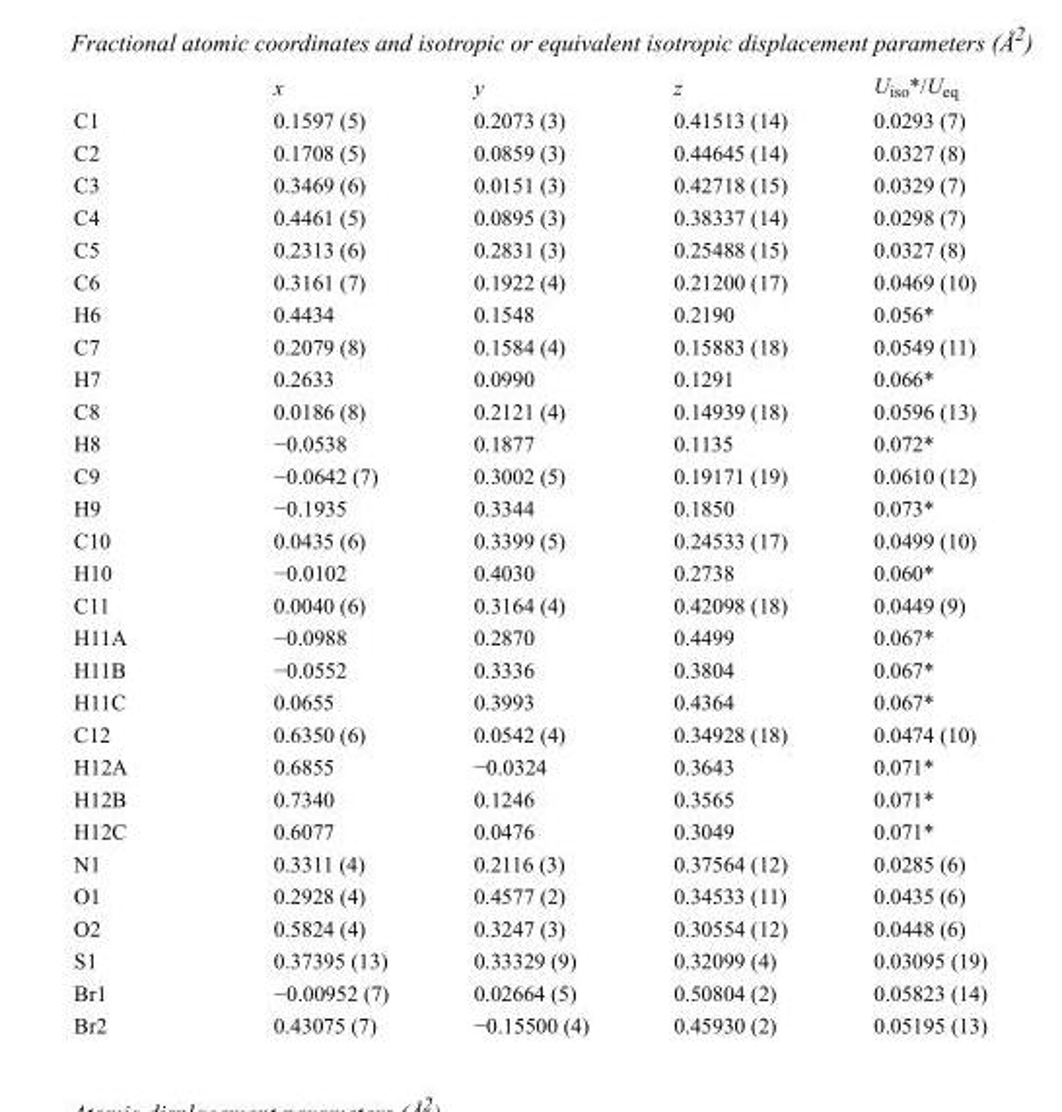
<table><thead><tr><td></td><td>x</td><td>y</td><td>z</td><td>U<sub>iso</sub>*/U<sub>eq</sub></td></tr></thead><tbody><tr><td>C1</td><td>0.1597 (5)</td><td>0.2073 (3)</td><td>0.41513 (14)</td><td>0.0293 (7)</td></tr><tr><td>C2</td><td>0.1708 (5)</td><td>0.0859 (3)</td><td>0.44645 (14)</td><td>0.0327 (8)</td></tr><tr><td>C3</td><td>0.3469 (6)</td><td>0.0151 (3)</td><td>0.42718 (15)</td><td>0.0329 (7)</td></tr><tr><td>C4</td><td>0.4461 (5)</td><td>0.0895 (3)</td><td>0.38337 (14)</td><td>0.0298 (7)</td></tr><tr><td>C5</td><td>0.2313 (6)</td><td>0.2831 (3)</td><td>0.25488 (15)</td><td>0.0327 (8)</td></tr><tr><td>C6</td><td>0.3161 (7)</td><td>0.1922 (4)</td><td>0.21200 (17)</td><td>0.0469 (10)</td></tr><tr><td>H6</td><td>0.4434</td><td>0.1548</td><td>0.2190</td><td>0.056*</td></tr><tr><td>C7</td><td>0.2079 (8)</td><td>0.1584 (4)</td><td>0.15883 (18)</td><td>0.0549 (11)</td></tr><tr><td>H7</td><td>0.2633</td><td>0.0990</td><td>0.1291</td><td>0.066*</td></tr><tr><td>C8</td><td>0.0186 (8)</td><td>0.2121 (4)</td><td>0.14939 (18)</td><td>0.0596 (13)</td></tr><tr><td>H8</td><td>−0.0538</td><td>0.1877</td><td>0.1135</td><td>0.072*</td></tr><tr><td>C9</td><td>−0.0642 (7)</td><td>0.3002 (5)</td><td>0.19171 (19)</td><td>0.0610 (12)</td></tr><tr><td>H9</td><td>−0.1935</td><td>0.3344</td><td>0.1850</td><td>0.073*</td></tr><tr><td>C10</td><td>0.0435 (6)</td><td>0.3399 (5)</td><td>0.24533 (17)</td><td>0.0499 (10)</td></tr><tr><td>H10</td><td>−0.0102</td><td>0.4030</td><td>0.2738</td><td>0.060*</td></tr><tr><td>C11</td><td>0.0040 (6)</td><td>0.3164 (4)</td><td>0.42098 (18)</td><td>0.0449 (9)</td></tr><tr><td>H11A</td><td>−0.0988</td><td>0.2870</td><td>0.4499</td><td>0.067*</td></tr><tr><td>H11B</td><td>−0.0552</td><td>0.3336</td><td>0.3804</td><td>0.067*</td></tr><tr><td>H11C</td><td>0.0655</td><td>0.3993</td><td>0.4364</td><td>0.067*</td></tr><tr><td>C12</td><td>0.6350 (6)</td><td>0.0542 (4)</td><td>0.34928 (18)</td><td>0.0474 (10)</td></tr><tr><td>H12A</td><td>0.6855</td><td>−0.0324</td><td>0.3643</td><td>0.071*</td></tr><tr><td>H12B</td><td>0.7340</td><td>0.1246</td><td>0.3565</td><td>0.071*</td></tr><tr><td>H12C</td><td>0.6077</td><td>0.0476</td><td>0.3049</td><td>0.071*</td></tr><tr><td>N1</td><td>0.3311 (4)</td><td>0.2116 (3)</td><td>0.37564 (12)</td><td>0.0285 (6)</td></tr><tr><td>O1</td><td>0.2928 (4)</td><td>0.4577 (2)</td><td>0.34533 (11)</td><td>0.0435 (6)</td></tr><tr><td>O2</td><td>0.5824 (4)</td><td>0.3247 (3)</td><td>0.30554 (12)</td><td>0.0448 (6)</td></tr><tr><td>S1</td><td>0.37395 (13)</td><td>0.33329 (9)</td><td>0.32099 (4)</td><td>0.03095 (19)</td></tr><tr><td>Br1</td><td>−0.00952 (7)</td><td>0.02664 (5)</td><td>0.50804 (2)</td><td>0.05823 (14)</td></tr><tr><td>Br2</td><td>0.43075 (7)</td><td>−0.15500 (4)</td><td>0.45930 (2)</td><td>0.05195 (13)</td></tr></tbody></table>